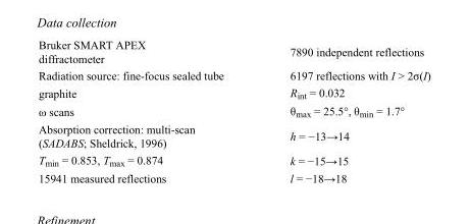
<table><tbody><tr><td>Bruker SMART APEX diffractometer</td><td>7890 independent reflections</td></tr><tr><td>Radiation source: fine-focus sealed tube</td><td>6197 reflections with I &gt; 2σ(I)</td></tr><tr><td>graphite</td><td>R<sub>int</sub> = 0.032</td></tr><tr><td>ω scans</td><td>θ<sub>max</sub> = 25.5°, θ<sub>min</sub> = 1.7°</td></tr><tr><td>Absorption correction: multi-scan (SADABS; Sheldrick, 1996)</td><td>h = −13→14</td></tr><tr><td>T<sub>min</sub> = 0.853, T<sub>max</sub> = 0.874</td><td>k = −15→15</td></tr><tr><td>15941 measured reflections</td><td>l = −18→18</td></tr></tbody></table>